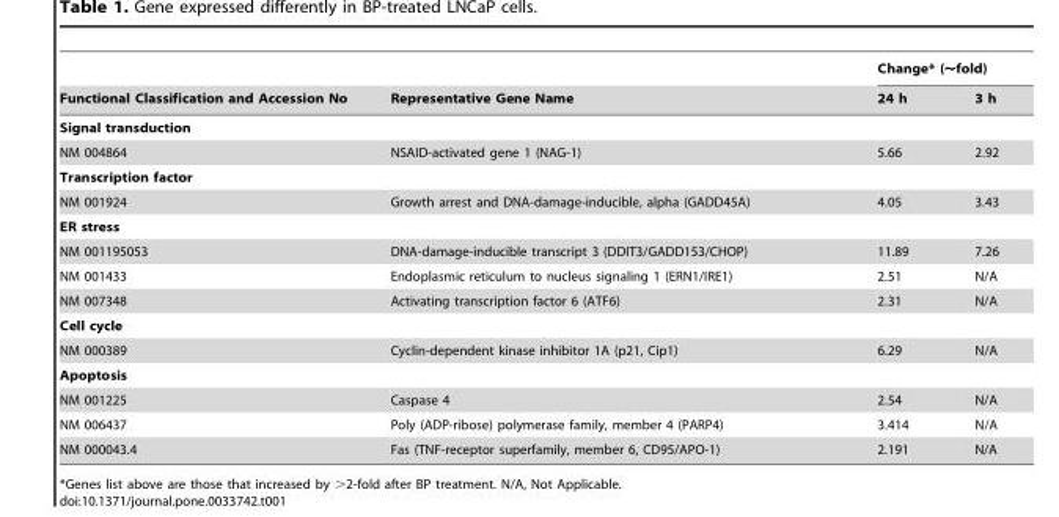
<table><thead><tr><td rowspan="2">Functional Classification and Accession No</td><td rowspan="2">Representative Gene Name</td><td colspan="2">Change* (∼fold)</td></tr><tr><td>24 h</td><td>3 h</td></tr></thead><tbody><tr><td colspan="4">Signal transduction</td></tr><tr><td>NM 004864</td><td>NSAID-activated gene 1 (NAG-1)</td><td>5.66</td><td>2.92</td></tr><tr><td colspan="4">Transcription factor</td></tr><tr><td>NM 001924</td><td>Growth arrest and DNA-damage-inducible, alpha (GADD45A)</td><td>4.05</td><td>3.43</td></tr><tr><td colspan="4">ER stress</td></tr><tr><td>NM 001195053</td><td>DNA-damage-inducible transcript 3 (DDIT3/GADD153/CHOP)</td><td>11.89</td><td>7.26</td></tr><tr><td>NM 001433</td><td>Endoplasmic reticulum to nucleus signaling 1 (ERN1/IRE1)</td><td>2.51</td><td>N/A</td></tr><tr><td>NM 007348</td><td>Activating transcription factor 6 (ATF6)</td><td>2.31</td><td>N/A</td></tr><tr><td colspan="4">Cell cycle</td></tr><tr><td>NM 000389</td><td>Cyclin-dependent kinase inhibitor 1A (p21, Cip1)</td><td>6.29</td><td>N/A</td></tr><tr><td colspan="4">Apoptosis</td></tr><tr><td>NM 001225</td><td>Caspase 4</td><td>2.54</td><td>N/A</td></tr><tr><td>NM 006437</td><td>Poly (ADP-ribose) polymerase family, member 4 (PARP4)</td><td>3.414</td><td>N/A</td></tr><tr><td>NM 000043.4</td><td>Fas (TNF-receptor superfamily, member 6, CD95/APO-1)</td><td>2.191</td><td>N/A</td></tr></tbody></table>